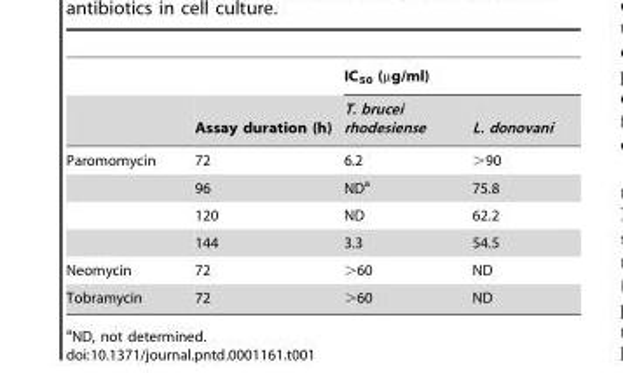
<table><thead><tr><td rowspan="2"></td><td rowspan="2">Assay duration (h)</td><td colspan="2">IC<sub>50</sub> (µg/ml)</td></tr><tr><td>T. brucei rhodesiense</td><td>L. donovani</td></tr></thead><tbody><tr><td rowspan="4">Paromomycin</td><td>72</td><td>6.2</td><td>&gt;90</td></tr><tr><td>96</td><td>ND<sup>a</sup></td><td>75.8</td></tr><tr><td>120</td><td>ND</td><td>62.2</td></tr><tr><td>144</td><td>3.3</td><td>54.5</td></tr><tr><td>Neomycin</td><td>72</td><td>&gt;60</td><td>ND</td></tr><tr><td>Tobramycin</td><td>72</td><td>&gt;60</td><td>ND</td></tr></tbody></table>